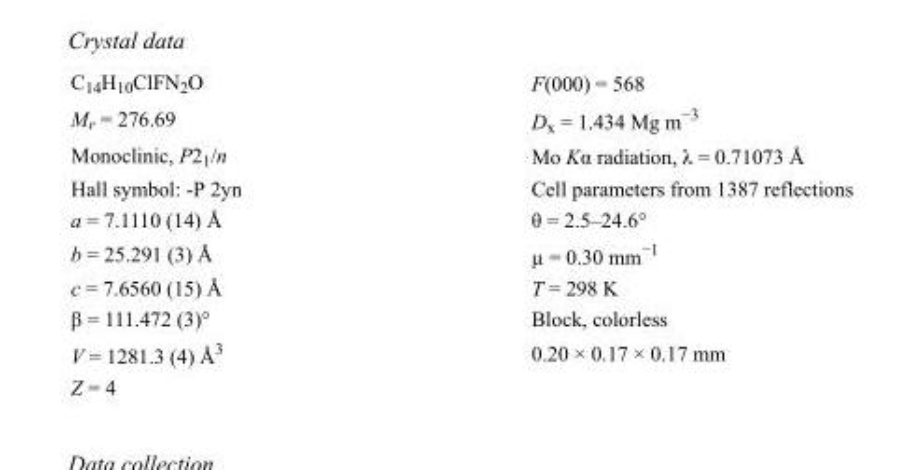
<table><tbody><tr><td>C<sub>14</sub>H<sub>10</sub>ClFN<sub>2</sub>O</td><td>F(000) = 568</td></tr><tr><td>M<sub>r</sub> = 276.69</td><td>D<sub>x</sub> = 1.434 Mg m<sup>−3</sup></td></tr><tr><td>Monoclinic, P2<sub>1</sub>/n</td><td>Mo Kα radiation, λ = 0.71073 Å</td></tr><tr><td>Hall symbol: -P 2yn</td><td>Cell parameters from 1387 reflections</td></tr><tr><td>a = 7.1110 (14) Å</td><td>θ = 2.5–24.6°</td></tr><tr><td>b = 25.291 (3) Å</td><td>µ = 0.30 mm<sup>−1</sup></td></tr><tr><td>c = 7.6560 (15) Å</td><td>T = 298 K</td></tr><tr><td>β = 111.472 (3)°</td><td>Block, colorless</td></tr><tr><td>V = 1281.3 (4) Å<sup>3</sup></td><td>0.20 × 0.17 × 0.17 mm</td></tr><tr><td>Z = 4</td><td></td></tr></tbody></table>